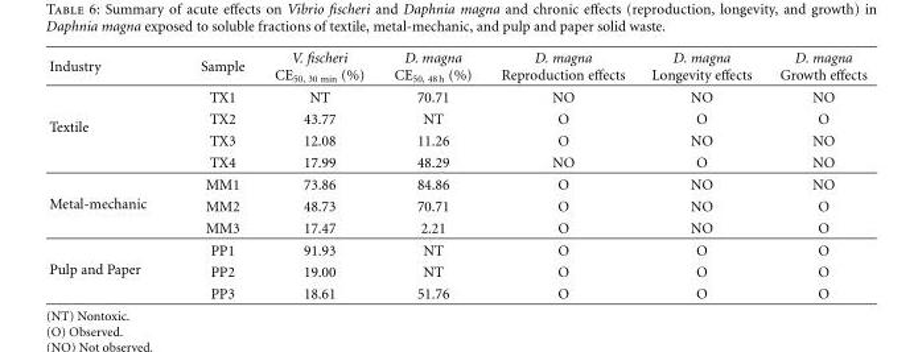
<table><thead><tr><td>Industry</td><td>Sample</td><td>V. fischeri CE<sub>50, 30 min</sub> (%)</td><td>D. magna CE<sub>50, 48h</sub> (%)</td><td>D. magna Reproduction effects</td><td>D. magna Longevity effects</td><td>D. magna Growth effects</td></tr></thead><tbody><tr><td rowspan="4">Textile</td><td>TX1</td><td>NT</td><td>70.71</td><td>NO</td><td>NO</td><td>NO</td></tr><tr><td>TX2</td><td>43.77</td><td>NT</td><td>O</td><td>O</td><td>O</td></tr><tr><td>TX3</td><td>12.08</td><td>11.26</td><td>O</td><td>NO</td><td>NO</td></tr><tr><td>TX4</td><td>17.99</td><td>48.29</td><td>NO</td><td>O</td><td>NO</td></tr><tr><td rowspan="3">Metal-mechanic</td><td>MM1</td><td>73.86</td><td>84.86</td><td>O</td><td>NO</td><td>NO</td></tr><tr><td>MM2</td><td>48.73</td><td>70.71</td><td>O</td><td>NO</td><td>O</td></tr><tr><td>MM3</td><td>17.47</td><td>2.21</td><td>O</td><td>NO</td><td>O</td></tr><tr><td rowspan="3">Pulp and Paper</td><td>PP1</td><td>91.93</td><td>NT</td><td>O</td><td>O</td><td>O</td></tr><tr><td>PP2</td><td>19.00</td><td>NT</td><td>O</td><td>O</td><td>O</td></tr><tr><td>PP3</td><td>18.61</td><td>51.76</td><td>O</td><td>O</td><td>O</td></tr></tbody></table>